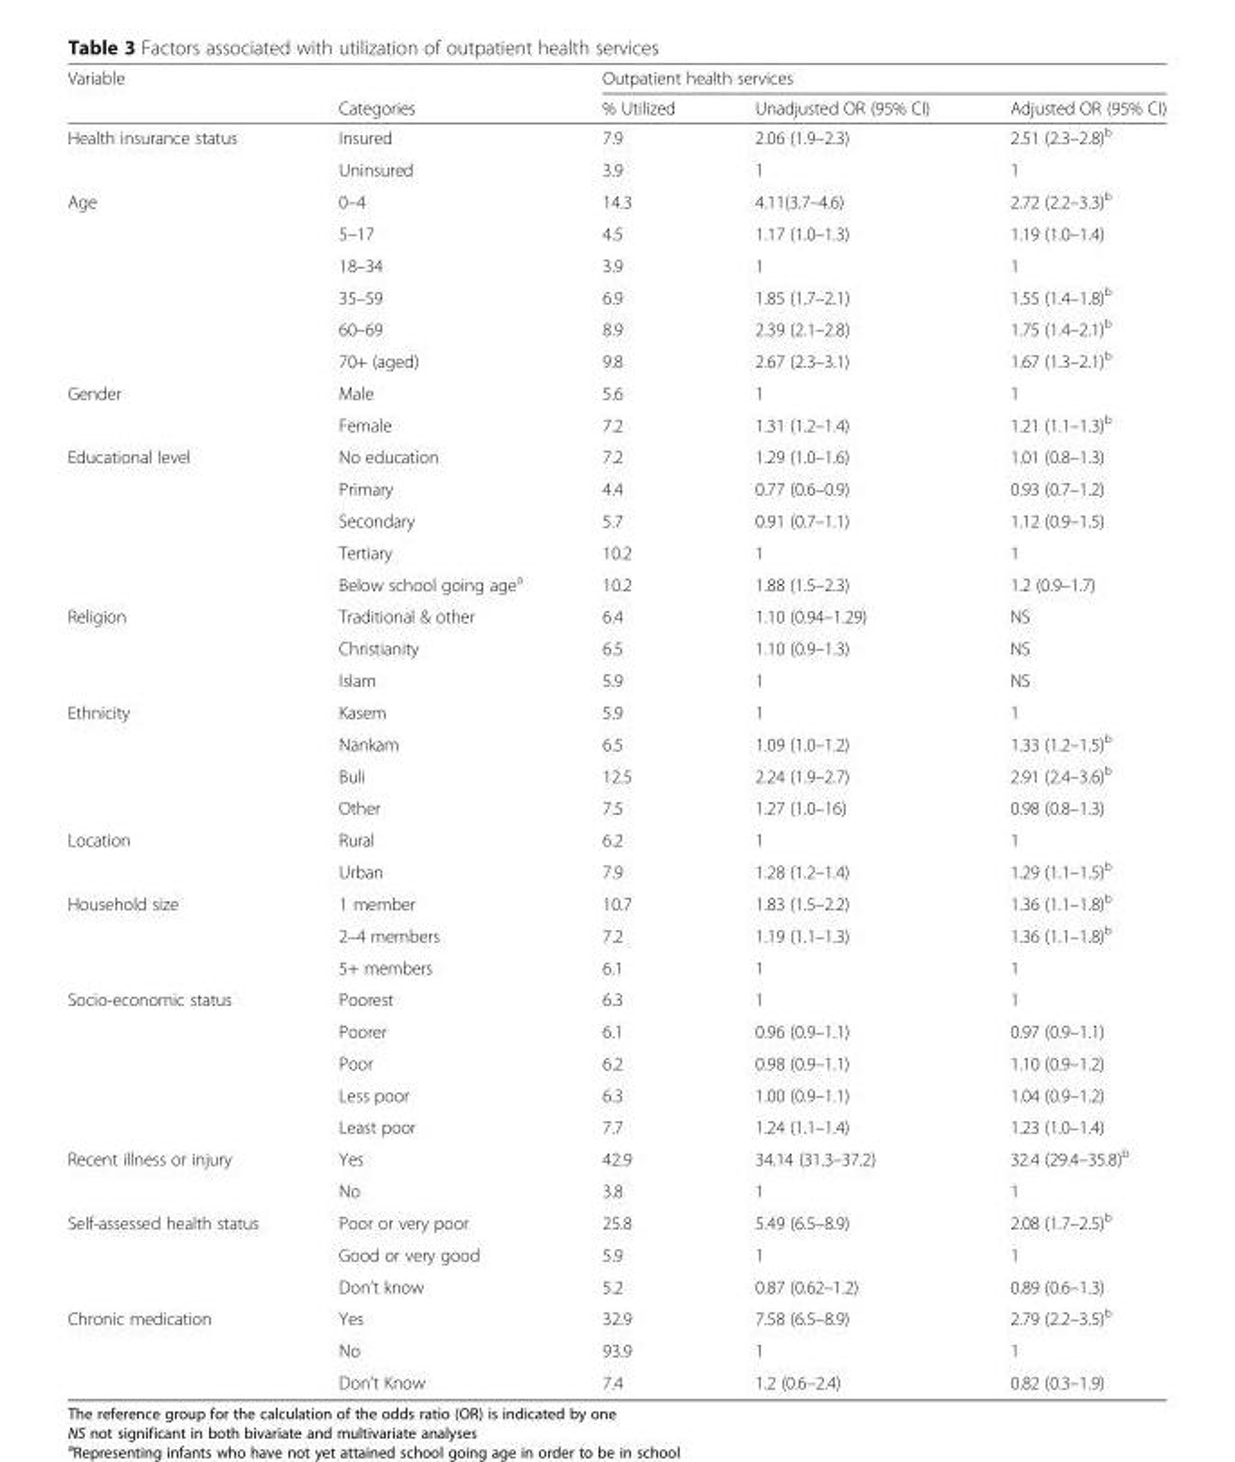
<table><thead><tr><td rowspan="2">Variable</td><td rowspan="2">Categories</td><td colspan="3">Outpatient health services</td></tr><tr><td>% Utilized</td><td>Unadjusted OR (95% CI)</td><td>Adjusted OR (95% CI)</td></tr></thead><tbody><tr><td rowspan="2">Health insurance status</td><td>Insured</td><td>7.9</td><td>2.06 (1.9–2.3)</td><td>2.51 (2.3–2.8)<sup>b</sup></td></tr><tr><td>Uninsured</td><td>3.9</td><td>1</td><td>1</td></tr><tr><td rowspan="6">Age</td><td>0–4</td><td>14.3</td><td>4.11(3.7–4.6)</td><td>2.72 (2.2–3.3)<sup>b</sup></td></tr><tr><td>5–17</td><td>4.5</td><td>1.17 (1.0–1.3)</td><td>1.19 (1.0–1.4)</td></tr><tr><td>18–34</td><td>3.9</td><td>1</td><td>1</td></tr><tr><td>35–59</td><td>6.9</td><td>1.85 (1.7–2.1)</td><td>1.55 (1.4–1.8)<sup>b</sup></td></tr><tr><td>60–69</td><td>8.9</td><td>2.39 (2.1–2.8)</td><td>1.75 (1.4–2.1)<sup>b</sup></td></tr><tr><td>70+ (aged)</td><td>9.8</td><td>2.67 (2.3–3.1)</td><td>1.67 (1.3–2.1)<sup>b</sup></td></tr><tr><td rowspan="2">Gender</td><td>Male</td><td>5.6</td><td>1</td><td>1</td></tr><tr><td>Female</td><td>7.2</td><td>1.31 (1.2–1.4)</td><td>1.21 (1.1–1.3)<sup>b</sup></td></tr><tr><td rowspan="5">Educational level</td><td>No education</td><td>7.2</td><td>1.29 (1.0–1.6)</td><td>1.01 (0.8–1.3)</td></tr><tr><td>Primary</td><td>4.4</td><td>0.77 (0.6–0.9)</td><td>0.93 (0.7–1.2)</td></tr><tr><td>Secondary</td><td>5.7</td><td>0.91 (0.7–1.1)</td><td>1.12 (0.9–1.5)</td></tr><tr><td>Tertiary</td><td>10.2</td><td>1</td><td>1</td></tr><tr><td>Below school going age<sup>a</sup></td><td>10.2</td><td>1.88 (1.5–2.3)</td><td>1.2 (0.9–1.7)</td></tr><tr><td rowspan="3">Religion</td><td>Traditional &amp; other</td><td>6.4</td><td>1.10 (0.94–1.29)</td><td>NS</td></tr><tr><td>Christianity</td><td>6.5</td><td>1.10 (0.9–1.3)</td><td>NS</td></tr><tr><td>Islam</td><td>5.9</td><td>1</td><td>NS</td></tr><tr><td rowspan="4">Ethnicity</td><td>Kasem</td><td>5.9</td><td>1</td><td>1</td></tr><tr><td>Nankam</td><td>6.5</td><td>1.09 (1.0–1.2)</td><td>1.33 (1.2–1.5)<sup>b</sup></td></tr><tr><td>Buli</td><td>12.5</td><td>2.24 (1.9–2.7)</td><td>2.91 (2.4–3.6)<sup>b</sup></td></tr><tr><td>Other</td><td>7.5</td><td>1.27 (1.0–16)</td><td>0.98 (0.8–1.3)</td></tr><tr><td rowspan="2">Location</td><td>Rural</td><td>6.2</td><td>1</td><td>1</td></tr><tr><td>Urban</td><td>7.9</td><td>1.28 (1.2–1.4)</td><td>1.29 (1.1–1.5)<sup>b</sup></td></tr><tr><td rowspan="3">Household size</td><td>1 member</td><td>10.7</td><td>1.83 (1.5–2.2)</td><td>1.36 (1.1–1.8)<sup>b</sup></td></tr><tr><td>2–4 members</td><td>7.2</td><td>1.19 (1.1–1.3)</td><td>1.36 (1.1–1.8)<sup>b</sup></td></tr><tr><td>5+ members</td><td>6.1</td><td>1</td><td>1</td></tr><tr><td rowspan="5">Socio-economic status</td><td>Poorest</td><td>6.3</td><td>1</td><td>1</td></tr><tr><td>Poorer</td><td>6.1</td><td>0.96 (0.9–1.1)</td><td>0.97 (0.9–1.1)</td></tr><tr><td>Poor</td><td>6.2</td><td>0.98 (0.9–1.1)</td><td>1.10 (0.9–1.2)</td></tr><tr><td>Less poor</td><td>6.3</td><td>1.00 (0.9–1.1)</td><td>1.04 (0.9–1.2)</td></tr><tr><td>Least poor</td><td>7.7</td><td>1.24 (1.1–1.4)</td><td>1.23 (1.0–1.4)</td></tr><tr><td rowspan="2">Recent illness or injury</td><td>Yes</td><td>42.9</td><td>34.14 (31.3–37.2)</td><td>32.4 (29.4–35.8)<sup>b</sup></td></tr><tr><td>No</td><td>3.8</td><td>1</td><td>1</td></tr><tr><td rowspan="3">Self-assessed health status</td><td>Poor or very poor</td><td>25.8</td><td>5.49 (6.5–8.9)</td><td>2.08 (1.7–2.5)<sup>b</sup></td></tr><tr><td>Good or very good</td><td>5.9</td><td>1</td><td>1</td></tr><tr><td>Don’t know</td><td>5.2</td><td>0.87 (0.62–1.2)</td><td>0.89 (0.6–1.3)</td></tr><tr><td rowspan="3">Chronic medication</td><td>Yes</td><td>32.9</td><td>7.58 (6.5–8.9)</td><td>2.79 (2.2–3.5)<sup>b</sup></td></tr><tr><td>No</td><td>93.9</td><td>1</td><td>1</td></tr><tr><td>Don’t Know</td><td>7.4</td><td>1.2 (0.6–2.4)</td><td>0.82 (0.3–1.9)</td></tr></tbody></table>